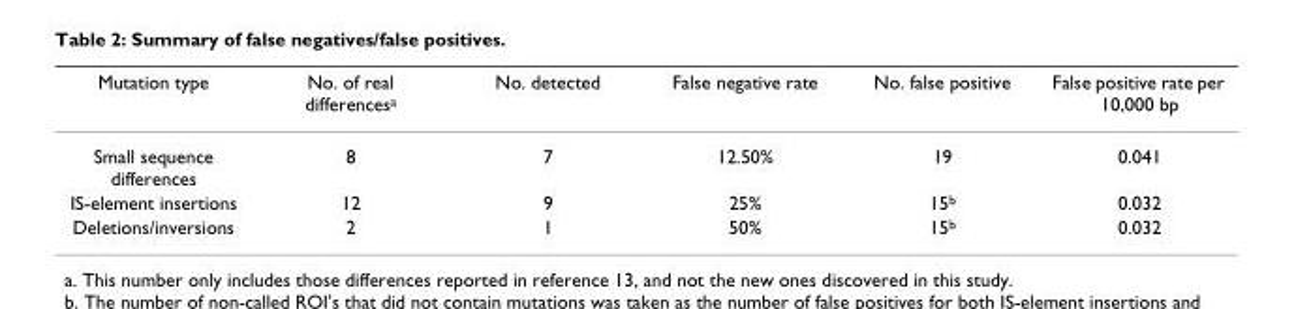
<table><thead><tr><td>Mutation type</td><td>No. of real differences<sup>a</sup></td><td>No. detected</td><td>False negative rate</td><td>No. false positive</td><td>False positive rate per 10,000 bp</td></tr></thead><tbody><tr><td>Small sequence differences</td><td>8</td><td>7</td><td>12.50%</td><td>19</td><td>0.041</td></tr><tr><td>IS-element insertions</td><td>12</td><td>9</td><td>25%</td><td>15<sup>b</sup></td><td>0.032</td></tr><tr><td>Deletions/inversions</td><td>2</td><td>1</td><td>50%</td><td>15<sup>b</sup></td><td>0.032</td></tr></tbody></table>